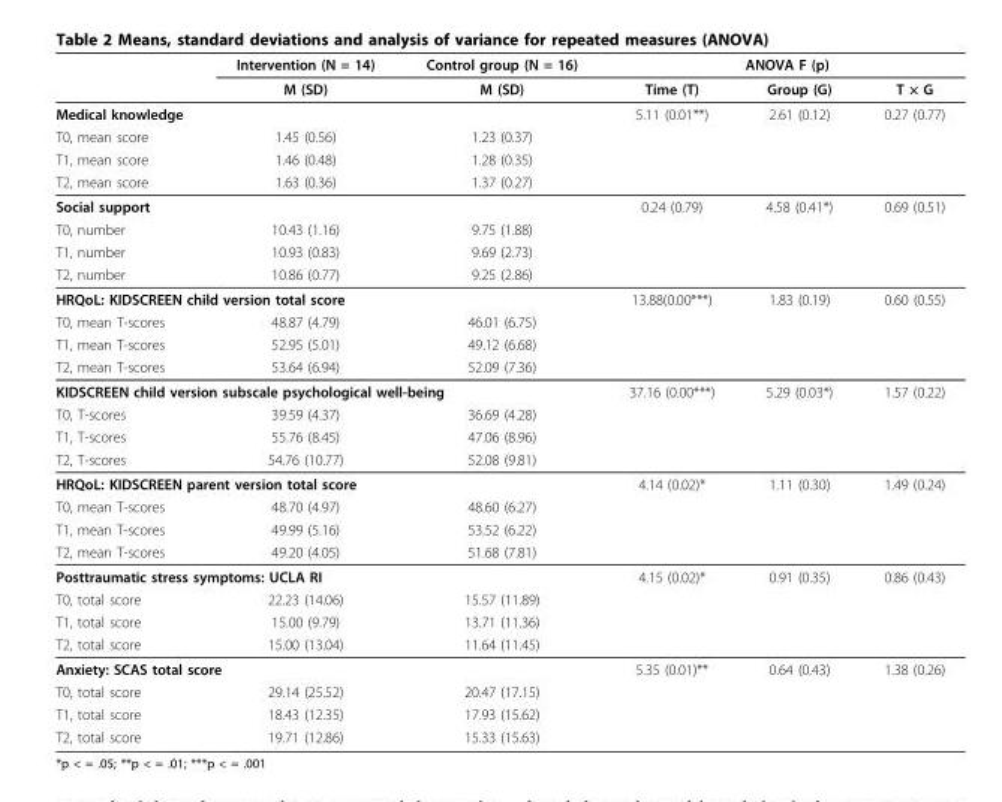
<table><thead><tr><td rowspan="2"></td><td rowspan="2">Intervention (N = 14) M (SD)</td><td rowspan="2">Control group (N = 16) M (SD)</td><td colspan="3">ANOVA F (p)</td></tr><tr><td>Time (T)</td><td>Group (G)</td><td>T × G</td></tr></thead><tbody><tr><td colspan="3">Medical knowledge</td><td>5.11 (0.01**)</td><td>2.61 (0.12)</td><td>0.27 (0.77)</td></tr><tr><td>T0, mean score</td><td>1.45 (0.56)</td><td>1.23 (0.37)</td><td></td><td></td><td></td></tr><tr><td>T1, mean score</td><td>1.46 (0.48)</td><td>1.28 (0.35)</td><td></td><td></td><td></td></tr><tr><td>T2, mean score</td><td>1.63 (0.36)</td><td>1.37 (0.27)</td><td></td><td></td><td></td></tr><tr><td colspan="3">Social support</td><td>0.24 (0.79)</td><td>4.58 (0.41*)</td><td>0.69 (0.51)</td></tr><tr><td>T0, number</td><td>10.43 (1.16)</td><td>9.75 (1.88)</td><td></td><td></td><td></td></tr><tr><td>T1, number</td><td>10.93 (0.83)</td><td>9.69 (2.73)</td><td></td><td></td><td></td></tr><tr><td>T2, number</td><td>10.86 (0.77)</td><td>9.25 (2.86)</td><td></td><td></td><td></td></tr><tr><td colspan="3">HRQoL: KIDSCREEN child version total score</td><td>13.88(0.00***)</td><td>1.83 (0.19)</td><td>0.60 (0.55)</td></tr><tr><td>T0, mean T-scores</td><td>48.87 (4.79)</td><td>46.01 (6.75)</td><td></td><td></td><td></td></tr><tr><td>T1, mean T-scores</td><td>52.95 (5.01)</td><td>49.12 (6.68)</td><td></td><td></td><td></td></tr><tr><td>T2, mean T-scores</td><td>53.64 (6.94)</td><td>52.09 (7.36)</td><td></td><td></td><td></td></tr><tr><td colspan="3">KIDSCREEN child version subscale psychological well-being</td><td>37.16 (0.00***)</td><td>5.29 (0.03*)</td><td>1.57 (0.22)</td></tr><tr><td>T0, T-scores</td><td>39.59 (4.37)</td><td>36.69 (4.28)</td><td></td><td></td><td></td></tr><tr><td>T1, T-scores</td><td>55.76 (8.45)</td><td>47.06 (8.96)</td><td></td><td></td><td></td></tr><tr><td>T2, T-scores</td><td>54.76 (10.77)</td><td>52.08 (9.81)</td><td></td><td></td><td></td></tr><tr><td colspan="3">HRQoL: KIDSCREEN parent version total score</td><td>4.14 (0.02)*</td><td>1.11 (0.30)</td><td>1.49 (0.24)</td></tr><tr><td>T0, mean T-scores</td><td>48.70 (4.97)</td><td>48.60 (6.27)</td><td></td><td></td><td></td></tr><tr><td>T1, mean T-scores</td><td>49.99 (5.16)</td><td>53.52 (6.22)</td><td></td><td></td><td></td></tr><tr><td>T2, mean T-scores</td><td>49.20 (4.05)</td><td>51.68 (7.81)</td><td></td><td></td><td></td></tr><tr><td colspan="3">Posttraumatic stress symptoms: UCLA RI</td><td>4.15 (0.02)*</td><td>0.91 (0.35)</td><td>0.86 (0.43)</td></tr><tr><td>T0, total score</td><td>22.23 (14.06)</td><td>15.57 (11.89)</td><td></td><td></td><td></td></tr><tr><td>T1, total score</td><td>15.00 (9.79)</td><td>13.71 (11.36)</td><td></td><td></td><td></td></tr><tr><td>T2, total score</td><td>15.00 (13.04)</td><td>11.64 (11.45)</td><td></td><td></td><td></td></tr><tr><td colspan="3">Anxiety: SCAS total score</td><td>5.35 (0.01)**</td><td>0.64 (0.43)</td><td>1.38 (0.26)</td></tr><tr><td>T0, total score</td><td>29.14 (25.52)</td><td>20.47 (17.15)</td><td></td><td></td><td></td></tr><tr><td>T1, total score</td><td>18.43 (12.35)</td><td>17.93 (15.62)</td><td></td><td></td><td></td></tr><tr><td>T2, total score</td><td>19.71 (12.86)</td><td>15.33 (15.63)</td><td></td><td></td><td></td></tr></tbody></table>